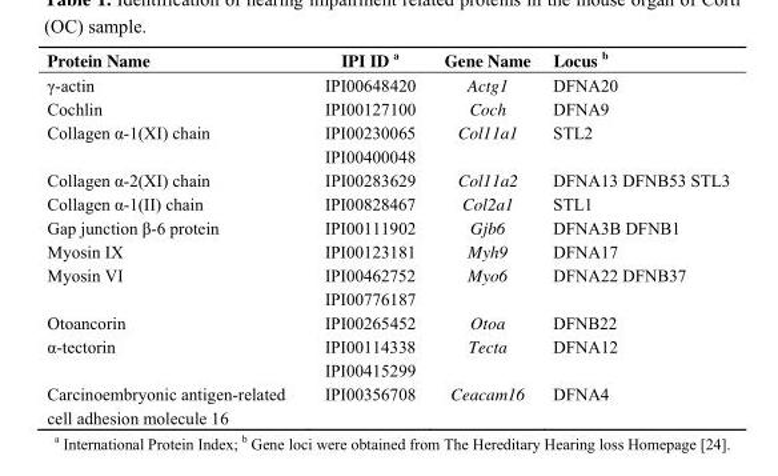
<table><thead><tr><td>Protein Name</td><td>IPI ID <sup>a</sup></td><td>Gene Name</td><td>Locus <sup>b</sup></td></tr></thead><tbody><tr><td>γ-actin</td><td>IPI00648420</td><td>Actg1</td><td>DFNA20</td></tr><tr><td>Cochlin</td><td>IPI00127100</td><td>Coch</td><td>DFNA9</td></tr><tr><td>Collagen α-1(XI) chain</td><td>IPI00230065 IPI00400048</td><td>Col11a1</td><td>STL2</td></tr><tr><td>Collagen α-2(XI) chain</td><td>IPI00283629</td><td>Col11a2</td><td>DFNA13 DFNB53 STL3</td></tr><tr><td>Collagen α-1(II) chain</td><td>IPI00828467</td><td>Col2a1</td><td>STL1</td></tr><tr><td>Gap junction β-6 protein</td><td>IPI00111902</td><td>Gjb6</td><td>DFNA3B DFNB1</td></tr><tr><td>Myosin IX</td><td>IPI00123181</td><td>Myh9</td><td>DFNA17</td></tr><tr><td>Myosin VI</td><td>IPI00462752 IPI00776187</td><td>Myo6</td><td>DFNA22 DFNB37</td></tr><tr><td>Otoancorin</td><td>IPI00265452</td><td>Otoa</td><td>DFNB22</td></tr><tr><td>α-tectorin</td><td>IPI00114338 IPI00415299</td><td>Tecta</td><td>DFNA12</td></tr><tr><td>Carcinoembryonic antigen-related cell adhesion molecule 16</td><td>IPI00356708</td><td>Ceacam16</td><td>DFNA4</td></tr></tbody></table>